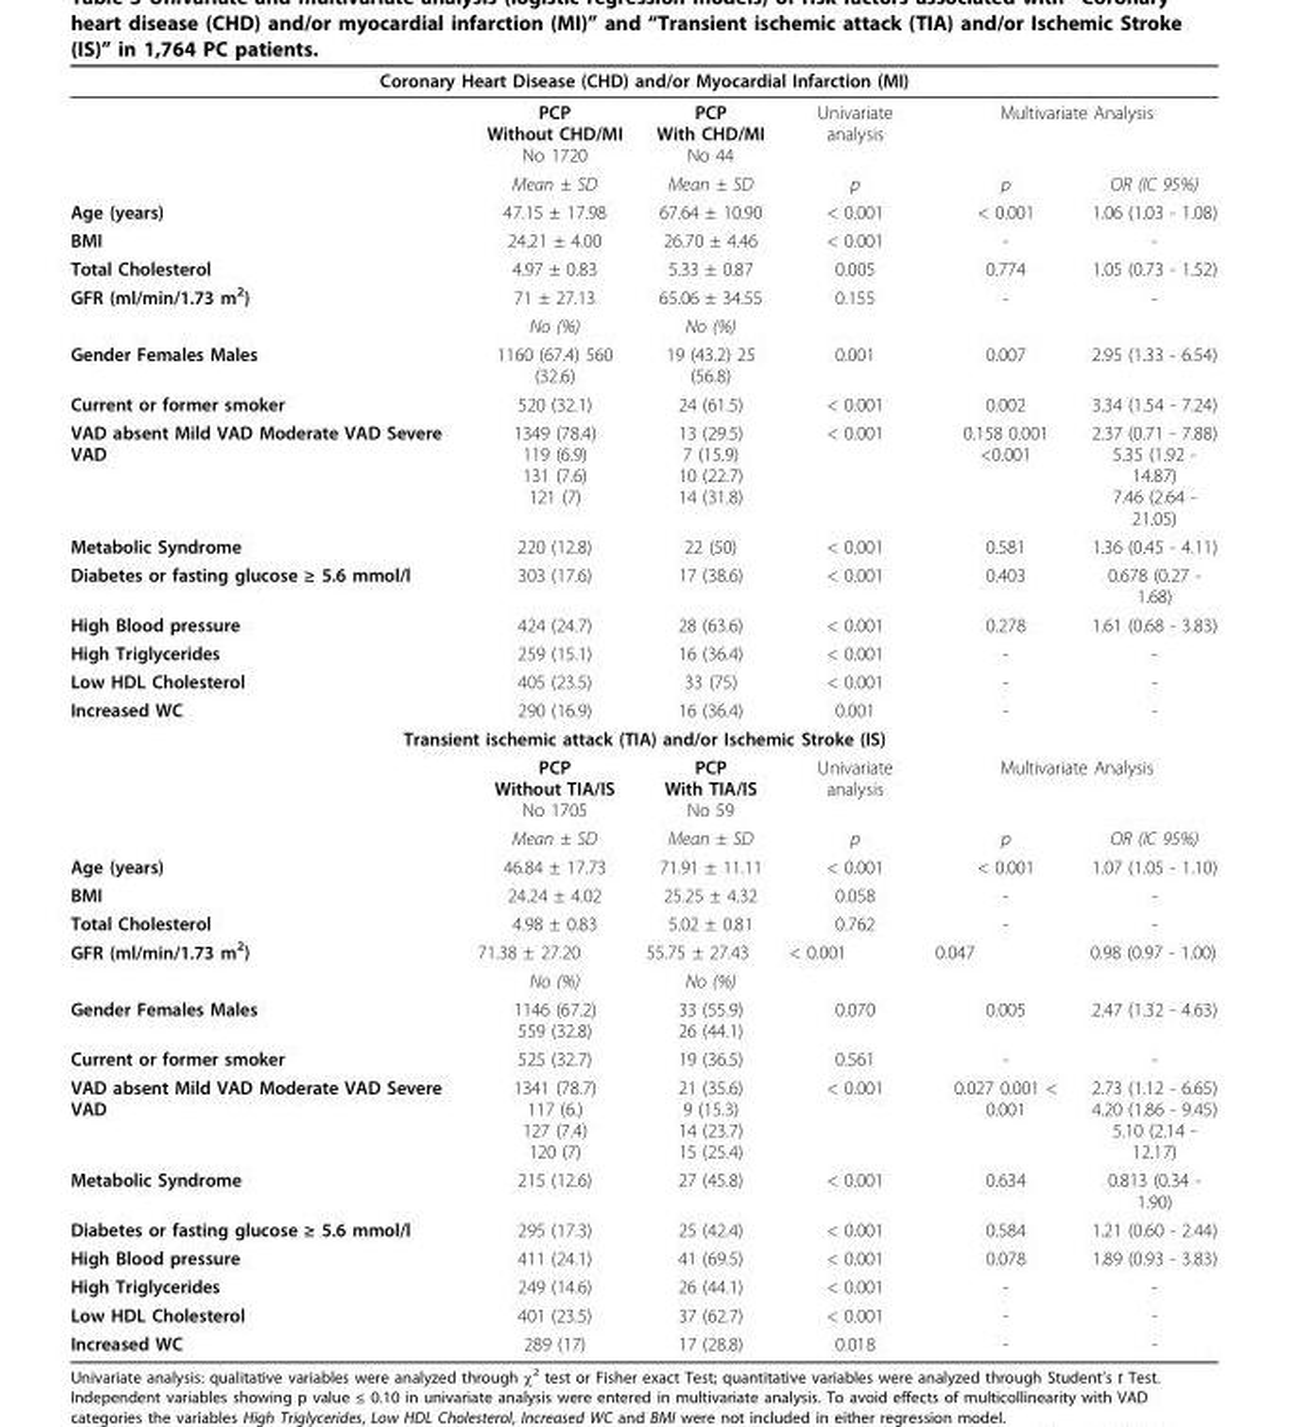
<table><thead><tr><td colspan="6">Coronary Heart Disease (CHD) and/or Myocardial Infarction (MI)</td></tr><tr><td rowspan="2"></td><td rowspan="2">PCP Without CHD/MI No 1720 Mean ± SD</td><td rowspan="2">PCP With CHD/MI No 44 Mean ± SD</td><td rowspan="2">Univariate analysis p</td><td colspan="2">Multivariate Analysis</td></tr><tr><td>p</td><td>OR (IC 95%)</td></tr></thead><tbody><tr><td>Age (years)</td><td>47.15 ± 17.98</td><td>67.64 ± 10.90</td><td>&lt; 0.001</td><td>&lt; 0.001</td><td>1.06 (1.03 - 1.08)</td></tr><tr><td>BMI</td><td>24.21 ± 4.00</td><td>26.70 ± 4.46</td><td>&lt; 0.001</td><td>-</td><td>-</td></tr><tr><td>Total Cholesterol</td><td>4.97 ± 0.83</td><td>5.33 ± 0.87</td><td>0.005</td><td>0.774</td><td>1.05 (0.73 - 1.52)</td></tr><tr><td rowspan="2">GFR (ml/min/1.73 m<sup>2</sup>)</td><td>71 ± 27.13</td><td>65.06 ± 34.55</td><td>0.155</td><td>-</td><td>-</td></tr><tr><td>No (%)</td><td>No (%)</td><td></td><td></td><td></td></tr><tr><td>Gender Females Males</td><td>1160 (67.4) 560 (32.6)</td><td>19 (43.2) 25 (56.8)</td><td>0.001</td><td>0.007</td><td>2.95 (1.33 - 6.54)</td></tr><tr><td>Current or former smoker</td><td>520 (32.1)</td><td>24 (61.5)</td><td>&lt; 0.001</td><td>0.002</td><td>3.34 (1.54 - 7.24)</td></tr><tr><td>VAD absent Mild VAD Moderate VAD Severe VAD</td><td>1349 (78.4) 119 (6.9) 131 (7.6) 121 (7)</td><td>13 (29.5) 7 (15.9) 10 (22.7) 14 (31.8)</td><td>&lt; 0.001</td><td>0.158 0.001 &lt;0.001</td><td>2.37 (0.71 - 7.88) 5.35 (1.92 - 14.87) 7.46 (2.64 - 21.05)</td></tr><tr><td>Metabolic Syndrome</td><td>220 (12.8)</td><td>22 (50)</td><td>&lt; 0.001</td><td>0.581</td><td>1.36 (0.45 - 4.11)</td></tr><tr><td>Diabetes or fasting glucose ≥ 5.6 mmol/l</td><td>303 (17.6)</td><td>17 (38.6)</td><td>&lt; 0.001</td><td>0.403</td><td>0.678 (0.27 - 1.68)</td></tr><tr><td>High Blood pressure</td><td>424 (24.7)</td><td>28 (63.6)</td><td>&lt; 0.001</td><td>0.278</td><td>1.61 (0.68 - 3.83)</td></tr><tr><td>High Triglycerides</td><td>259 (15.1)</td><td>16 (36.4)</td><td>&lt; 0.001</td><td>-</td><td>-</td></tr><tr><td>Low HDL Cholesterol</td><td>405 (23.5)</td><td>33 (75)</td><td>&lt; 0.001</td><td>-</td><td>-</td></tr><tr><td>Increased WC</td><td>290 (16.9)</td><td>16 (36.4)</td><td>0.001</td><td>-</td><td>-</td></tr><tr><td colspan="6">Transient ischemic attack (TIA) and/or Ischemic Stroke (IS)</td></tr><tr><td></td><td>PCP Without TIA/IS No 1705</td><td>PCP With TIA/IS No 59</td><td>Univariate analysis</td><td colspan="2">Multivariate Analysis</td></tr><tr><td></td><td>Mean ± SD</td><td>Mean ± SD</td><td>p</td><td>p</td><td>OR (IC 95%)</td></tr><tr><td>Age (years)</td><td>46.84 ± 17.73</td><td>71.91 ± 11.11</td><td>&lt; 0.001</td><td>&lt; 0.001</td><td>1.07 (1.05 - 1.10)</td></tr><tr><td>BMI</td><td>24.24 ± 4.02</td><td>25.25 ± 4.32</td><td>0.058</td><td>-</td><td>-</td></tr><tr><td>Total Cholesterol</td><td>4.98 ± 0.83</td><td>5.02 ± 0.81</td><td>0.762</td><td>-</td><td>-</td></tr><tr><td rowspan="2">GFR (ml/min/1.73 m<sup>2</sup>)</td><td>71.38 ± 27.20</td><td>55.75 ± 27.43</td><td>&lt; 0.001</td><td>0.047</td><td>0.98 (0.97 - 1.00)</td></tr><tr><td>No (%)</td><td>No (%)</td><td></td><td></td><td></td></tr><tr><td>Gender Females Males</td><td>1146 (67.2) 559 (32.8)</td><td>33 (55.9) 26 (44.1)</td><td>0.070</td><td>0.005</td><td>2.47 (1.32 - 4.63)</td></tr><tr><td>Current or former smoker</td><td>525 (32.7)</td><td>19 (36.5)</td><td>0.561</td><td>-</td><td>-</td></tr><tr><td>VAD absent Mild VAD Moderate VAD Severe VAD</td><td>1341 (78.7) 117 (6.) 127 (7.4) 120 (7)</td><td>21 (35.6) 9 (15.3) 14 (23.7) 15 (25.4)</td><td>&lt; 0.001</td><td>0.027 0.001 &lt; 0.001</td><td>2.73 (1.12 - 6.65) 4.20 (1.86 - 9.45) 5.10 (2.14 - 12.17)</td></tr><tr><td>Metabolic Syndrome</td><td>215 (12.6)</td><td>27 (45.8)</td><td>&lt; 0.001</td><td>0.634</td><td>0.813 (0.34 - 1.90)</td></tr><tr><td>Diabetes or fasting glucose ≥ 5.6 mmol/l</td><td>295 (17.3)</td><td>25 (42.4)</td><td>&lt; 0.001</td><td>0.584</td><td>1.21 (0.60 - 2.44)</td></tr><tr><td>High Blood pressure</td><td>411 (24.1)</td><td>41 (69.5)</td><td>&lt; 0.001</td><td>0.078</td><td>1.89 (0.93 - 3.83)</td></tr><tr><td>High Triglycerides</td><td>249 (14.6)</td><td>26 (44.1)</td><td>&lt; 0.001</td><td>-</td><td>-</td></tr><tr><td>Low HDL Cholesterol</td><td>401 (23.5)</td><td>37 (62.7)</td><td>&lt; 0.001</td><td>-</td><td>-</td></tr><tr><td>Increased WC</td><td>289 (17)</td><td>17 (28.8)</td><td>0.018</td><td>-</td><td>-</td></tr></tbody></table>